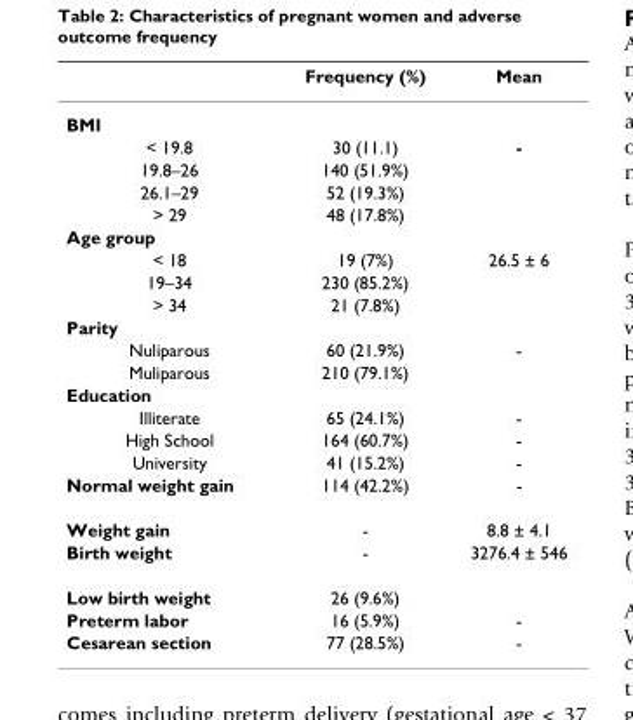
<table><thead><tr><td></td><td>Frequency (%)</td><td>Mean</td></tr></thead><tbody><tr><td colspan="3">BMI</td></tr><tr><td>&lt; 19.8</td><td>30 (11.1)</td><td>-</td></tr><tr><td>19.8–26</td><td>140 (51.9%)</td><td></td></tr><tr><td>26.1–29</td><td>52 (19.3%)</td><td></td></tr><tr><td>&gt; 29</td><td>48 (17.8%)</td><td></td></tr><tr><td colspan="3">Age group</td></tr><tr><td>&lt; 18</td><td>19 (7%)</td><td>26.5 ± 6</td></tr><tr><td>19–34</td><td>230 (85.2%)</td><td></td></tr><tr><td>&gt; 34</td><td>21 (7.8%)</td><td></td></tr><tr><td colspan="3">Parity</td></tr><tr><td>Nuliparous</td><td>60 (21.9%)</td><td>-</td></tr><tr><td>Muliparous</td><td>210 (79.1%)</td><td></td></tr><tr><td colspan="3">Education</td></tr><tr><td>Illiterate</td><td>65 (24.1%)</td><td>-</td></tr><tr><td>High School</td><td>164 (60.7%)</td><td>-</td></tr><tr><td>University</td><td>41 (15.2%)</td><td>-</td></tr><tr><td>Normal weight gain</td><td>114 (42.2%)</td><td>-</td></tr><tr><td>Weight gain</td><td>-</td><td>8.8 ± 4.1</td></tr><tr><td>Birth weight</td><td>-</td><td>3276.4 ± 546</td></tr><tr><td>Low birth weight</td><td>26 (9.6%)</td><td></td></tr><tr><td>Preterm labor</td><td>16 (5.9%)</td><td>-</td></tr><tr><td>Cesarean section</td><td>77 (28.5%)</td><td>-</td></tr></tbody></table>